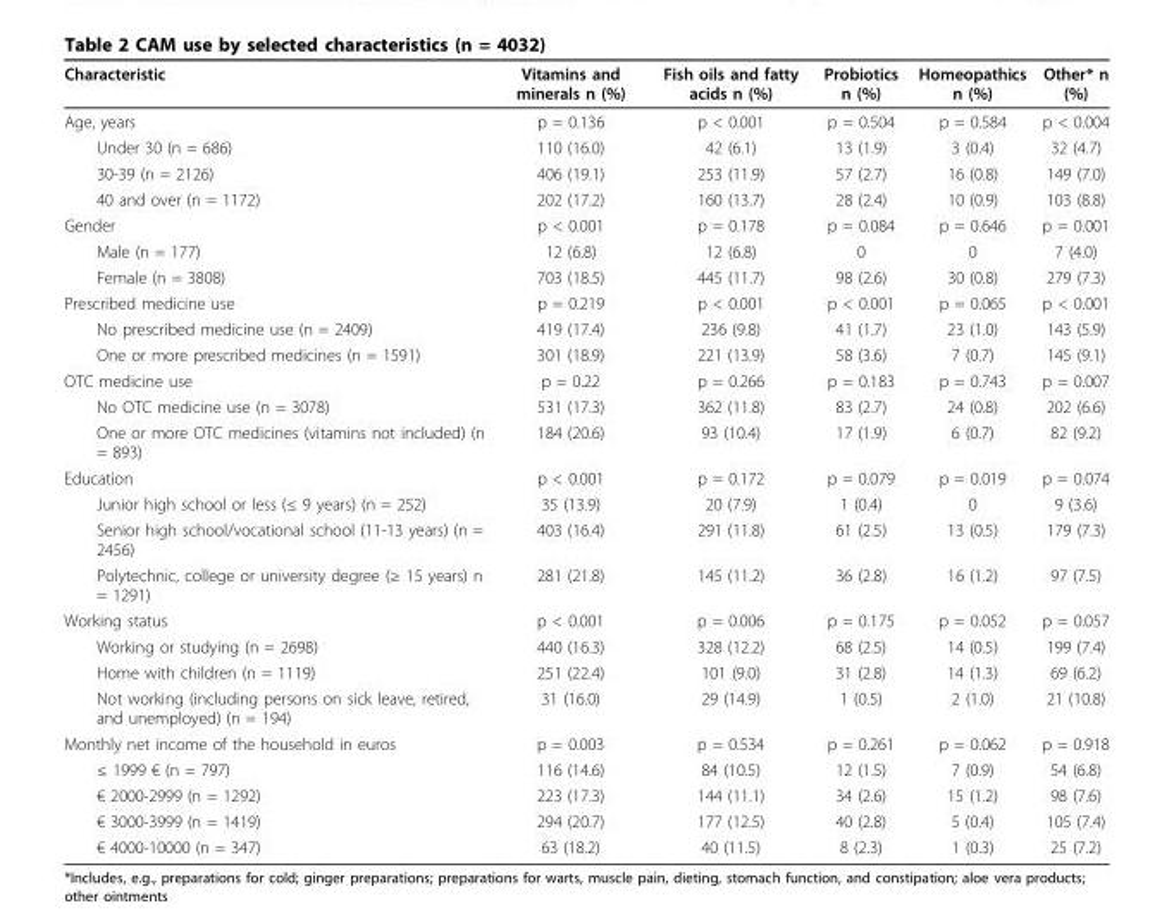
<table><thead><tr><td>Characteristic</td><td>Vitamins and minerals n (%)</td><td>Fish oils and fatty acids n (%)</td><td>Probiotics n (%)</td><td>Homeopathics n (%)</td><td>Other* n (%)</td></tr></thead><tbody><tr><td>Age, years</td><td>p = 0.136</td><td>p &lt; 0.001</td><td>p = 0.504</td><td>p = 0.584</td><td>p &lt; 0.004</td></tr><tr><td>Under 30 (n = 686)</td><td>110 (16.0)</td><td>42 (6.1)</td><td>13 (1.9)</td><td>3 (0.4)</td><td>32 (4.7)</td></tr><tr><td>30-39 (n = 2126)</td><td>406 (19.1)</td><td>253 (11.9)</td><td>57 (2.7)</td><td>16 (0.8)</td><td>149 (7.0)</td></tr><tr><td>40 and over (n = 1172)</td><td>202 (17.2)</td><td>160 (13.7)</td><td>28 (2.4)</td><td>10 (0.9)</td><td>103 (8.8)</td></tr><tr><td>Gender</td><td>p &lt; 0.001</td><td>p = 0.178</td><td>p = 0.084</td><td>p = 0.646</td><td>p = 0.001</td></tr><tr><td>Male (n = 177)</td><td>12 (6.8)</td><td>12 (6.8)</td><td>0</td><td>0</td><td>7 (4.0)</td></tr><tr><td>Female (n = 3808)</td><td>703 (18.5)</td><td>445 (11.7)</td><td>98 (2.6)</td><td>30 (0.8)</td><td>279 (7.3)</td></tr><tr><td>Prescribed medicine use</td><td>p = 0.219</td><td>p &lt; 0.001</td><td>p &lt; 0.001</td><td>p = 0.065</td><td>p &lt; 0.001</td></tr><tr><td>No prescribed medicine use (n = 2409)</td><td>419 (17.4)</td><td>236 (9.8)</td><td>41 (1.7)</td><td>23 (1.0)</td><td>143 (5.9)</td></tr><tr><td>One or more prescribed medicines (n = 1591)</td><td>301 (18.9)</td><td>221 (13.9)</td><td>58 (3.6)</td><td>7 (0.7)</td><td>145 (9.1)</td></tr><tr><td>OTC medicine use</td><td>p = 0.22</td><td>p = 0.266</td><td>p = 0.183</td><td>p = 0.743</td><td>p = 0.007</td></tr><tr><td>No OTC medicine use (n = 3078)</td><td>531 (17.3)</td><td>362 (11.8)</td><td>83 (2.7)</td><td>24 (0.8)</td><td>202 (6.6)</td></tr><tr><td>One or more OTC medicines (vitamins not included) (n = 893)</td><td>184 (20.6)</td><td>93 (10.4)</td><td>17 (1.9)</td><td>6 (0.7)</td><td>82 (9.2)</td></tr><tr><td>Education</td><td>p &lt; 0.001</td><td>p = 0.172</td><td>p = 0.079</td><td>p = 0.019</td><td>p = 0.074</td></tr><tr><td>Junior high school or less (≤ 9 years) (n = 252)</td><td>35 (13.9)</td><td>20 (7.9)</td><td>1 (0.4)</td><td>0</td><td>9 (3.6)</td></tr><tr><td>Senior high school/vocational school (11-13 years) (n = 2456)</td><td>403 (16.4)</td><td>291 (11.8)</td><td>61 (2.5)</td><td>13 (0.5)</td><td>179 (7.3)</td></tr><tr><td>Polytechnic, college or university degree (≥ 15 years) n = 1291)</td><td>281 (21.8)</td><td>145 (11.2)</td><td>36 (2.8)</td><td>16 (1.2)</td><td>97 (7.5)</td></tr><tr><td>Working status</td><td>p &lt; 0.001</td><td>p = 0.006</td><td>p = 0.175</td><td>p = 0.052</td><td>p = 0.057</td></tr><tr><td>Working or studying (n = 2698)</td><td>440 (16.3)</td><td>328 (12.2)</td><td>68 (2.5)</td><td>14 (0.5)</td><td>199 (7.4)</td></tr><tr><td>Home with children (n = 1119)</td><td>251 (22.4)</td><td>101 (9.0)</td><td>31 (2.8)</td><td>14 (1.3)</td><td>69 (6.2)</td></tr><tr><td>Not working (including persons on sick leave, retired, and unemployed) (n = 194)</td><td>31 (16.0)</td><td>29 (14.9)</td><td>1 (0.5)</td><td>2 (1.0)</td><td>21 (10.8)</td></tr><tr><td>Monthly net income of the household in euros</td><td>p = 0.003</td><td>p = 0.534</td><td>p = 0.261</td><td>p = 0.062</td><td>p = 0.918</td></tr><tr><td>≤ 1999 € (n = 797)</td><td>116 (14.6)</td><td>84 (10.5)</td><td>12 (1.5)</td><td>7 (0.9)</td><td>54 (6.8)</td></tr><tr><td>€ 2000-2999 (n = 1292)</td><td>223 (17.3)</td><td>144 (11.1)</td><td>34 (2.6)</td><td>15 (1.2)</td><td>98 (7.6)</td></tr><tr><td>€ 3000-3999 (n = 1419)</td><td>294 (20.7)</td><td>177 (12.5)</td><td>40 (2.8)</td><td>5 (0.4)</td><td>105 (7.4)</td></tr><tr><td>€ 4000-10000 (n = 347)</td><td>63 (18.2)</td><td>40 (11.5)</td><td>8 (2.3)</td><td>1 (0.3)</td><td>25 (7.2)</td></tr></tbody></table>